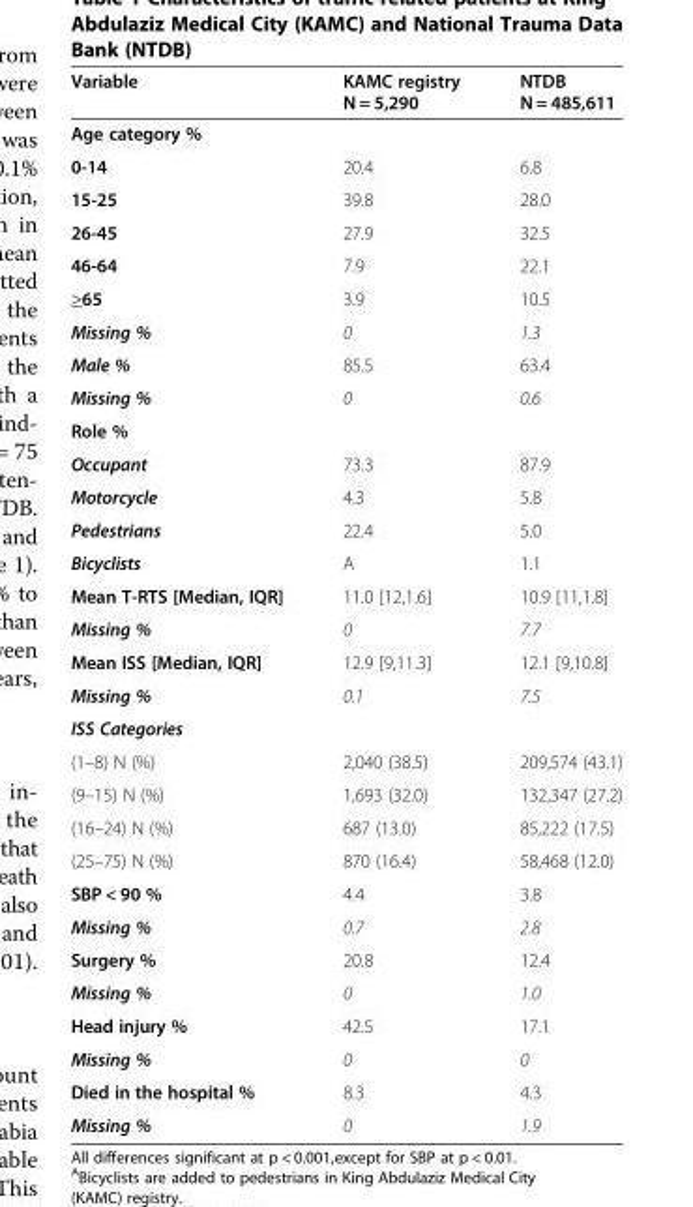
<table><thead><tr><td>Variable</td><td>KAMC registry N = 5,290</td><td>NTDB N = 485,611</td></tr></thead><tbody><tr><td colspan="3">Age category %</td></tr><tr><td>0-14</td><td>20.4</td><td>6.8</td></tr><tr><td>15-25</td><td>39.8</td><td>28.0</td></tr><tr><td>26-45</td><td>27.9</td><td>32.5</td></tr><tr><td>46-64</td><td>7.9</td><td>22.1</td></tr><tr><td>≥65</td><td>3.9</td><td>10.5</td></tr><tr><td>Missing %</td><td>0</td><td>1.3</td></tr><tr><td>Male %</td><td>85.5</td><td>63.4</td></tr><tr><td>Missing %</td><td>0</td><td>0.6</td></tr><tr><td colspan="3">Role %</td></tr><tr><td>Occupant</td><td>73.3</td><td>87.9</td></tr><tr><td>Motorcycle</td><td>4.3</td><td>5.8</td></tr><tr><td>Pedestrians</td><td>22.4</td><td>5.0</td></tr><tr><td>Bicyclists</td><td>A</td><td>1.1</td></tr><tr><td>Mean T-RTS [Median, IQR]</td><td>11.0 [12,1.6]</td><td>10.9 [11,1.8]</td></tr><tr><td>Missing %</td><td>0</td><td>7.7</td></tr><tr><td>Mean ISS [Median, IQR]</td><td>12.9 [9,11.3]</td><td>12.1 [9,10.8]</td></tr><tr><td>Missing %</td><td>0.1</td><td>7.5</td></tr><tr><td colspan="3">ISS Categories</td></tr><tr><td>(1–8) N (%)</td><td>2,040 (38.5)</td><td>209,574 (43.1)</td></tr><tr><td>(9–15) N (%)</td><td>1,693 (32.0)</td><td>132,347 (27.2)</td></tr><tr><td>(16–24) N (%)</td><td>687 (13.0)</td><td>85,222 (17.5)</td></tr><tr><td>(25–75) N (%)</td><td>870 (16.4)</td><td>58,468 (12.0)</td></tr><tr><td>SBP &lt; 90 %</td><td>4.4</td><td>3.8</td></tr><tr><td>Missing %</td><td>0.7</td><td>2.8</td></tr><tr><td>Surgery %</td><td>20.8</td><td>12.4</td></tr><tr><td>Missing %</td><td>0</td><td>1.0</td></tr><tr><td>Head injury %</td><td>42.5</td><td>17.1</td></tr><tr><td>Missing %</td><td>0</td><td>0</td></tr><tr><td>Died in the hospital %</td><td>8.3</td><td>4.3</td></tr><tr><td>Missing %</td><td>0</td><td>1.9</td></tr></tbody></table>